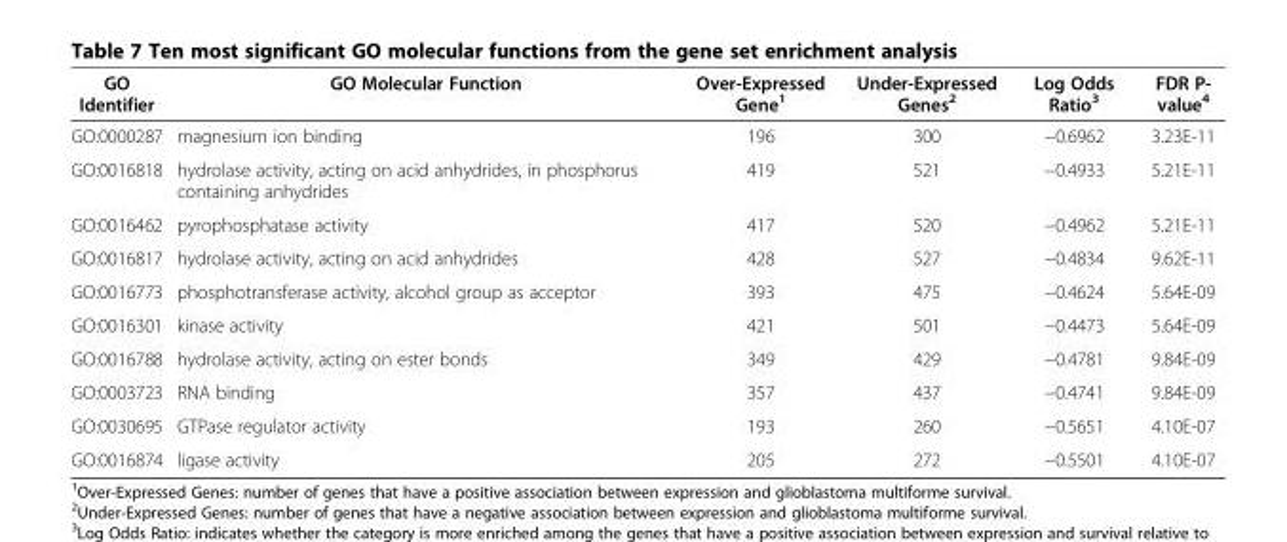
<table><thead><tr><td>GO Identifier</td><td>GO Molecular Function</td><td>Over-Expressed Gene<sup>1</sup></td><td>Under-Expressed Genes<sup>2</sup></td><td>Log Odds Ratio<sup>3</sup></td><td>FDR P- value<sup>4</sup></td></tr></thead><tbody><tr><td>GO:0000287</td><td>magnesium ion binding</td><td>196</td><td>300</td><td>−0.6962</td><td>3.23E-11</td></tr><tr><td>GO:0016818</td><td>hydrolase activity, acting on acid anhydrides, in phosphorus containing anhydrides</td><td>419</td><td>521</td><td>−0.4933</td><td>5.21E-11</td></tr><tr><td>GO:0016462</td><td>pyrophosphatase activity</td><td>417</td><td>520</td><td>−0.4962</td><td>5.21E-11</td></tr><tr><td>GO:0016817</td><td>hydrolase activity, acting on acid anhydrides</td><td>428</td><td>527</td><td>−0.4834</td><td>9.62E-11</td></tr><tr><td>GO:0016773</td><td>phosphotransferase activity, alcohol group as acceptor</td><td>393</td><td>475</td><td>−0.4624</td><td>5.64E-09</td></tr><tr><td>GO:0016301</td><td>kinase activity</td><td>421</td><td>501</td><td>−0.4473</td><td>5.64E-09</td></tr><tr><td>GO:0016788</td><td>hydrolase activity, acting on ester bonds</td><td>349</td><td>429</td><td>−0.4781</td><td>9.84E-09</td></tr><tr><td>GO:0003723</td><td>RNA binding</td><td>357</td><td>437</td><td>−0.4741</td><td>9.84E-09</td></tr><tr><td>GO:0030695</td><td>GTPase regulator activity</td><td>193</td><td>260</td><td>−0.5651</td><td>4.10E-07</td></tr><tr><td>GO:0016874</td><td>ligase activity</td><td>205</td><td>272</td><td>−0.5501</td><td>4.10E-07</td></tr></tbody></table>